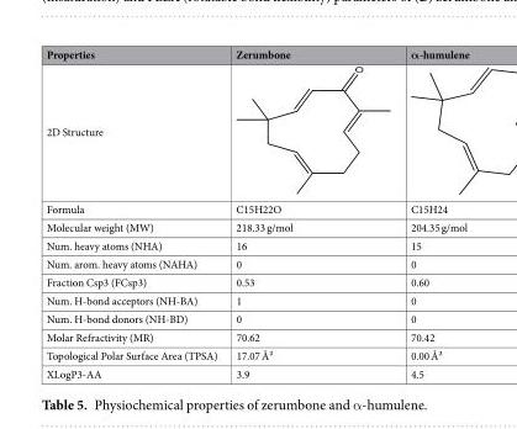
<table><thead><tr><td>Properties</td><td>Zerumbone</td><td>α-humulene</td></tr></thead><tbody><tr><td colspan="3">2D Structure</td></tr><tr><td>Formula</td><td>C15H22O</td><td>C15H24</td></tr><tr><td>Molecular weight (MW)</td><td>218.33 g/mol</td><td>204.35 g/mol</td></tr><tr><td>Num. heavy atoms (NHA)</td><td>16</td><td>15</td></tr><tr><td>Num. arom. heavy atoms (NAHA)</td><td>0</td><td>0</td></tr><tr><td>Fraction Csp3 (FCsp3)</td><td>0.53</td><td>0.60</td></tr><tr><td>Num. H-bond acceptors (NH-BA)</td><td>1</td><td>0</td></tr><tr><td>Num. H-bond donors (NH-BD)</td><td>0</td><td>0</td></tr><tr><td>Molar Refractivity (MR)</td><td>70.62</td><td>70.42</td></tr><tr><td>Topological Polar Surface Area (TPSA)</td><td>17.07 Å²</td><td>0.00 Å²</td></tr><tr><td>XLogP3-AA</td><td>3.9</td><td>4.5</td></tr></tbody></table>